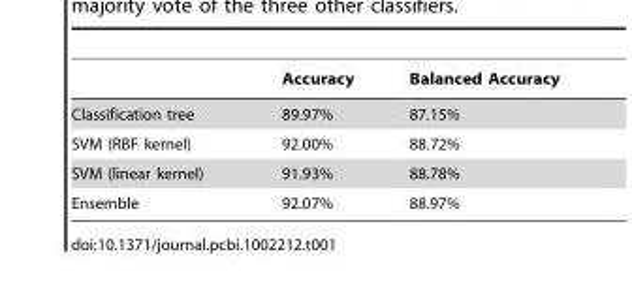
<table><thead><tr><td></td><td>Accuracy</td><td>Balanced Accuracy</td></tr></thead><tbody><tr><td>Classification tree</td><td>89.97%</td><td>87.15%</td></tr><tr><td>SVM (RBF kernel)</td><td>92.00%</td><td>88.72%</td></tr><tr><td>SVM (linear kernel)</td><td>91.93%</td><td>88.78%</td></tr><tr><td>Ensemble</td><td>92.07%</td><td>88.97%</td></tr></tbody></table>